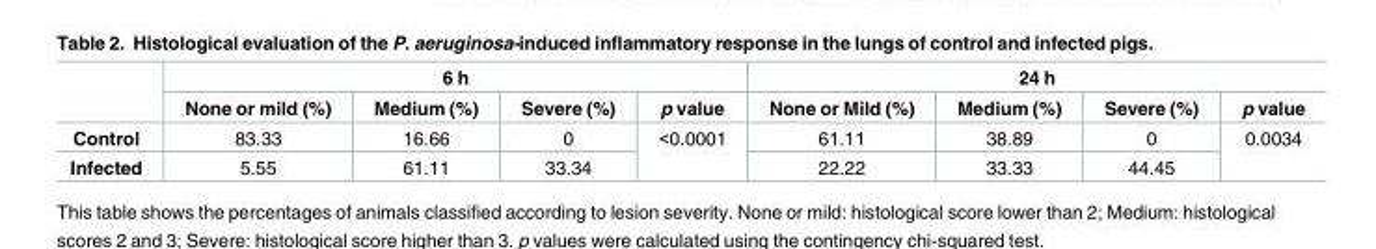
<table><thead><tr><td rowspan="2"></td><td colspan="4">6 h</td><td colspan="4">24 h</td></tr><tr><td>None or mild (%)</td><td>Medium (%)</td><td>Severe (%)</td><td>p value</td><td>None or Mild (%)</td><td>Medium (%)</td><td>Severe (%)</td><td>p value</td></tr></thead><tbody><tr><td>Control</td><td>83.33</td><td>16.66</td><td>0</td><td rowspan="2">&lt;0.0001</td><td>61.11</td><td>38.89</td><td>0</td><td rowspan="2">0.0034</td></tr><tr><td>Infected</td><td>5.55</td><td>61.11</td><td>33.34</td><td>22.22</td><td>33.33</td><td>44.45</td></tr></tbody></table>